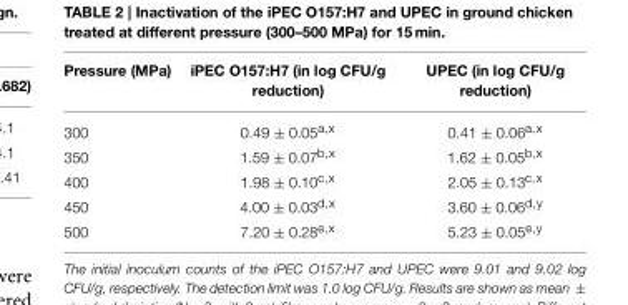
<table><thead><tr><td>Pressure (MPa)</td><td>iPEC O157:H7 (in log CFU/g reduction)</td><td>UPEC (in log CFU/g reduction)</td></tr></thead><tbody><tr><td>300</td><td>0.49 ± 0.05<sup>a,x</sup></td><td>0.41 ± 0.06<sup>a,x</sup></td></tr><tr><td>350</td><td>1.59 ± 0.07<sup>b,x</sup></td><td>1.62 ± 0.05<sup>b,x</sup></td></tr><tr><td>400</td><td>1.98 ± 0.10<sup>c,x</sup></td><td>2.05 ± 0.13<sup>c,x</sup></td></tr><tr><td>450</td><td>4.00 ± 0.03<sup>d,x</sup></td><td>3.60 ± 0.06<sup>d,y</sup></td></tr><tr><td>500</td><td>7.20 ± 0.28<sup>e,x</sup></td><td>5.23 ± 0.05<sup>e,y</sup></td></tr></tbody></table>